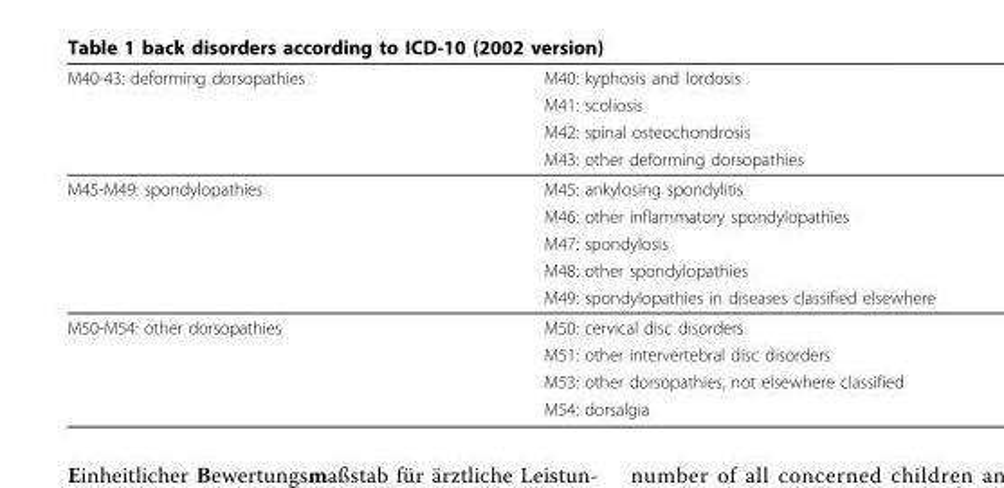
<table><thead><tr><td rowspan="4">M40-43: deforming dorsopathies</td><td rowspan="4">M40: kyphosis and lordosis M41: scoliosis M42: spinal osteochondrosis M43: other deforming dorsopathies</td></tr><tr></tr><tr></tr><tr></tr></thead><tbody><tr><td rowspan="5">M45-M49: spondylopathies</td><td>M45: ankylosing spondylitis</td></tr><tr><td>M46: other inflammatory spondylopathies</td></tr><tr><td>M47: spondylosis</td></tr><tr><td>M48: other spondylopathies</td></tr><tr><td>M49: spondylopathies in diseases classified elsewhere</td></tr><tr><td rowspan="4">M50-M54: other dorsopathies</td><td>M50: cervical disc disorders</td></tr><tr><td>M51: other intervertebral disc disorders</td></tr><tr><td>M53: other dorsopathies, not elsewhere classified</td></tr><tr><td>M54: dorsalgia</td></tr></tbody></table>